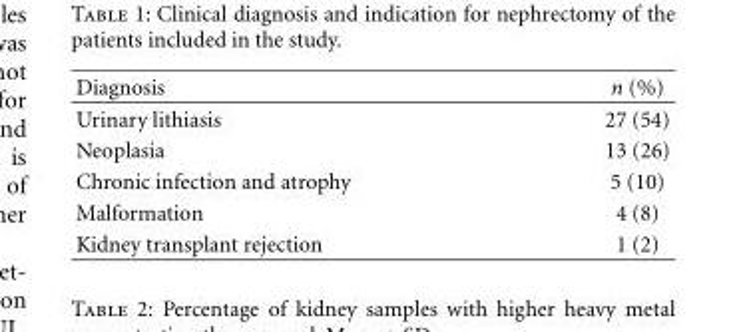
<table><thead><tr><td>Diagnosis</td><td>n (%)</td></tr></thead><tbody><tr><td>Urinary lithiasis</td><td>27 (54)</td></tr><tr><td>Neoplasia</td><td>13 (26)</td></tr><tr><td>Chronic infection and atrophy</td><td>5 (10)</td></tr><tr><td>Malformation</td><td>4 (8)</td></tr><tr><td>Kidney transplant rejection</td><td>1 (2)</td></tr></tbody></table>